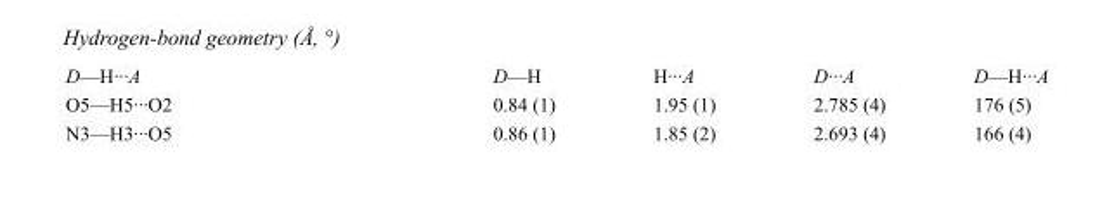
<table><tbody><tr><td>D—H···A</td><td>D—H</td><td>H···A</td><td>D···A</td><td>D—H···A</td></tr><tr><td>O5—H5···O2</td><td>0.84 (1)</td><td>1.95 (1)</td><td>2.785 (4)</td><td>176 (5)</td></tr><tr><td>N3—H3···O5</td><td>0.86 (1)</td><td>1.85 (2)</td><td>2.693 (4)</td><td>166 (4)</td></tr></tbody></table>